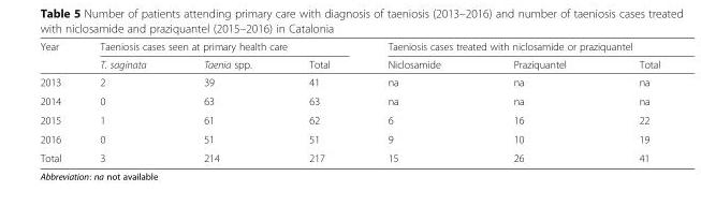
<table><thead><tr><td rowspan="2">Year</td><td colspan="3">Taeniosis cases seen at primary health care</td><td colspan="3">Taeniosis cases treated with niclosamide or praziquantel</td></tr><tr><td>T. saginata</td><td>Taenia spp.</td><td>Total</td><td>Niclosamide</td><td>Praziquantel</td><td>Total</td></tr></thead><tbody><tr><td>2013</td><td>2</td><td>39</td><td>41</td><td>na</td><td>na</td><td>na</td></tr><tr><td>2014</td><td>0</td><td>63</td><td>63</td><td>na</td><td>na</td><td>na</td></tr><tr><td>2015</td><td>1</td><td>61</td><td>62</td><td>6</td><td>16</td><td>22</td></tr><tr><td>2016</td><td>0</td><td>51</td><td>51</td><td>9</td><td>10</td><td>19</td></tr><tr><td>Total</td><td>3</td><td>214</td><td>217</td><td>15</td><td>26</td><td>41</td></tr></tbody></table>